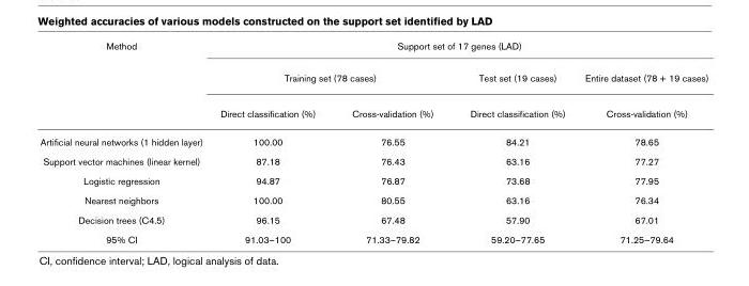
<table><thead><tr><td rowspan="3">Method</td><td colspan="4">Support set of 17 genes (LAD)</td></tr><tr><td colspan="2">Training set (78 cases)</td><td rowspan="2">Test set (19 cases) Direct classification (%)</td><td rowspan="2">Entire dataset (78 + 19 cases) Cross-validation (%)</td></tr><tr><td>Direct classification (%)</td><td>Cross-validation (%)</td></tr></thead><tbody><tr><td>Artificial neural networks (1 hidden layer)</td><td>100.00</td><td>76.55</td><td>84.21</td><td>78.65</td></tr><tr><td>Support vector machines (linear kernel)</td><td>87.18</td><td>76.43</td><td>63.16</td><td>77.27</td></tr><tr><td>Logistic regression</td><td>94.87</td><td>76.87</td><td>73.68</td><td>77.95</td></tr><tr><td>Nearest neighbors</td><td>100.00</td><td>80.55</td><td>63.16</td><td>76.34</td></tr><tr><td>Decision trees (C4.5)</td><td>96.15</td><td>67.48</td><td>57.90</td><td>67.01</td></tr><tr><td>95% CI</td><td>91.03–100</td><td>71.33–79.82</td><td>59.20–77.65</td><td>71.25–79.64</td></tr></tbody></table>